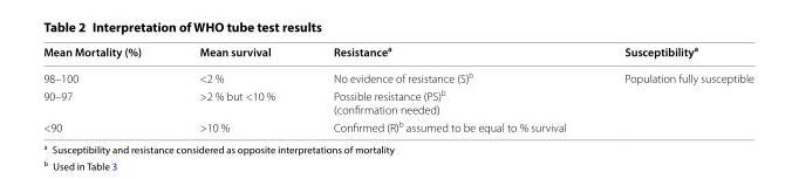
<table><thead><tr><td>Mean Mortality (%)</td><td>Mean survival</td><td>Resistance<sup>a</sup></td><td>Susceptibility<sup>a</sup></td></tr></thead><tbody><tr><td>98–100</td><td>&lt;2 %</td><td>No evidence of resistance (S)<sup>b</sup></td><td>Population fully susceptible</td></tr><tr><td>90–97</td><td>&gt;2 % but &lt;10 %</td><td>Possible resistance (PS)<sup>b</sup> (confirmation needed)</td><td></td></tr><tr><td>&lt;90</td><td>&gt;10 %</td><td>Confirmed (R)<sup>b</sup> assumed to be equal to % survival</td><td></td></tr></tbody></table>